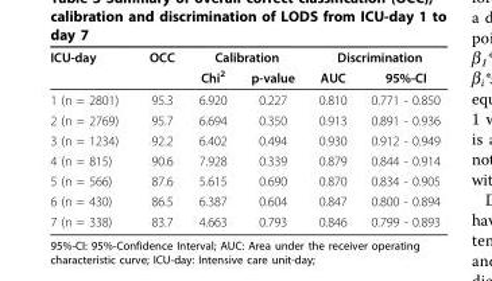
<table><thead><tr><td rowspan="2">ICU-day</td><td rowspan="2">OCC</td><td colspan="2">Calibration</td><td colspan="2">Discrimination</td></tr><tr><td>Chi<sup>2</sup></td><td>p-value</td><td>AUC</td><td>95%-CI</td></tr></thead><tbody><tr><td>1 (n = 2801)</td><td>95.3</td><td>6.920</td><td>0.227</td><td>0.810</td><td>0.771 - 0.850</td></tr><tr><td>2 (n = 2769)</td><td>95.7</td><td>6.694</td><td>0.350</td><td>0.913</td><td>0.891 - 0.936</td></tr><tr><td>3 (n = 1234)</td><td>92.2</td><td>6.402</td><td>0.494</td><td>0.930</td><td>0.912 - 0.949</td></tr><tr><td>4 (n = 815)</td><td>90.6</td><td>7.928</td><td>0.339</td><td>0.879</td><td>0.844 - 0.914</td></tr><tr><td>5 (n = 566)</td><td>87.6</td><td>5.615</td><td>0.690</td><td>0.870</td><td>0.834 - 0.905</td></tr><tr><td>6 (n = 430)</td><td>86.5</td><td>6.387</td><td>0.604</td><td>0.847</td><td>0.800 - 0.894</td></tr><tr><td>7 (n = 338)</td><td>83.7</td><td>4.663</td><td>0.793</td><td>0.846</td><td>0.799 - 0.893</td></tr></tbody></table>